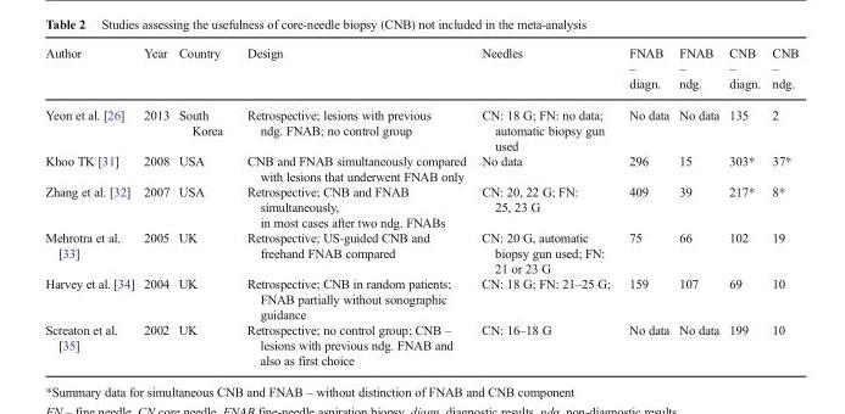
<table><thead><tr><td>Author</td><td>Year</td><td>Country</td><td>Design</td><td>Needles</td><td>FNAB – diagn.</td><td>FNAB – ndg.</td><td>CNB – diagn.</td><td>CNB – ndg.</td></tr></thead><tbody><tr><td>Yeon et al. [26]</td><td>2013</td><td>South Korea</td><td>Retrospective; lesions with previous ndg. FNAB; no control group</td><td>CN: 18 G; FN: no data; automatic biopsy gun used</td><td>No data</td><td>No data</td><td>135</td><td>2</td></tr><tr><td>Khoo TK [31]</td><td>2008</td><td>USA</td><td>CNB and FNAB simultaneously compared with lesions that underwent FNAB only</td><td>No data</td><td>296</td><td>15</td><td>303*</td><td>37*</td></tr><tr><td>Zhang et al. [32]</td><td>2007</td><td>USA</td><td>Retrospective; CNB and FNAB simultaneously, in most cases after two ndg. FNABs</td><td>CN: 20, 22 G; FN: 25, 23 G</td><td>409</td><td>39</td><td>217*</td><td>8*</td></tr><tr><td>Mehrotra et al. [33]</td><td>2005</td><td>UK</td><td>Retrospective; US-guided CNB and freehand FNAB compared</td><td>CN: 20 G, automatic biopsy gun used; FN: 21 or 23 G</td><td>75</td><td>66</td><td>102</td><td>19</td></tr><tr><td>Harvey et al. [34]</td><td>2004</td><td>UK</td><td>Retrospective; CNB in random patients; FNAB partially without sonographic guidance</td><td>CN: 18 G; FN: 21–25 G;</td><td>159</td><td>107</td><td>69</td><td>10</td></tr><tr><td>Screaton et al. [35]</td><td>2002</td><td>UK</td><td>Retrospective; no control group; CNB – lesions with previous ndg. FNAB and also as first choice</td><td>CN: 16–18 G</td><td>No data</td><td>No data</td><td>199</td><td>10</td></tr></tbody></table>